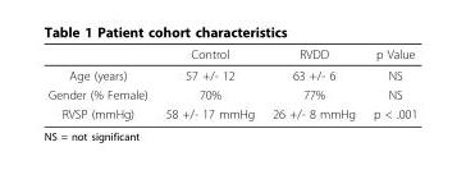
<table><thead><tr><td></td><td>Control</td><td>RVDD</td><td>p Value</td></tr></thead><tbody><tr><td>Age (years)</td><td>57 +/- 12</td><td>63 +/- 6</td><td>NS</td></tr><tr><td>Gender (% Female)</td><td>70%</td><td>77%</td><td>NS</td></tr><tr><td>RVSP (mmHg)</td><td>58 +/- 17 mmHg</td><td>26 +/- 8 mmHg</td><td>p &lt; .001</td></tr></tbody></table>